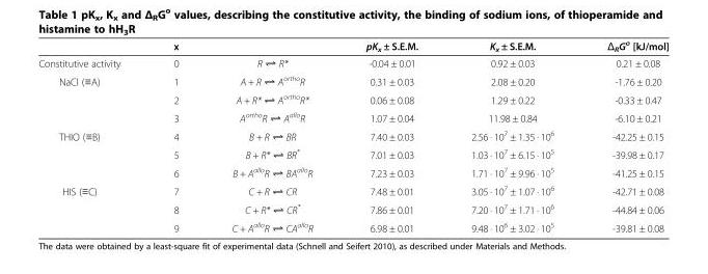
<table><thead><tr><td></td><td>x</td><td></td><td>pK<sub>x</sub> ± S.E.M.</td><td>K<sub>x</sub> ± S.E.M.</td><td>Δ<sub>R</sub>G<sup>o</sup> [kJ/mol]</td></tr></thead><tbody><tr><td>Constitutive activity</td><td>0</td><td>R ⇌ R*</td><td>-0.04 ± 0.01</td><td>0.92 ± 0.03</td><td>0.21 ± 0.08</td></tr><tr><td rowspan="3">NaCl (≡A)</td><td>1</td><td>A + R ⇌ A<sup>ortho</sup>R</td><td>0.31 ± 0.03</td><td>2.08 ± 0.20</td><td>-1.76 ± 0.20</td></tr><tr><td>2</td><td>A + R* ⇌ A<sup>ortho</sup>R*</td><td>0.06 ± 0.08</td><td>1.29 ± 0.22</td><td>-0.33 ± 0.47</td></tr><tr><td>3</td><td>A<sup>ortho</sup>R ⇌ A<sup>allo</sup>R</td><td>1.07 ± 0.04</td><td>11.98 ± 0.84</td><td>-6.10 ± 0.21</td></tr><tr><td rowspan="3">THIO (≡B)</td><td>4</td><td>B + R ⇌ BR</td><td>7.40 ± 0.03</td><td>2.56 · 10<sup>7</sup> ± 1.35 · 10<sup>6</sup></td><td>-42.25 ± 0.15</td></tr><tr><td>5</td><td>B + R* ⇌ BR*</td><td>7.01 ± 0.03</td><td>1.03 · 10<sup>7</sup> ± 6.15 · 10<sup>5</sup></td><td>-39.98 ± 0.17</td></tr><tr><td>6</td><td>B + A<sup>allo</sup>R ⇌ BA<sup>allo</sup>R</td><td>7.23 ± 0.03</td><td>1.71 · 10<sup>7</sup> ± 9.96 · 10<sup>5</sup></td><td>-41.25 ± 0.15</td></tr><tr><td rowspan="3">HIS (≡C)</td><td>7</td><td>C + R ⇌ CR</td><td>7.48 ± 0.01</td><td>3.05 · 10<sup>7</sup> ± 1.07 · 10<sup>6</sup></td><td>-42.71 ± 0.08</td></tr><tr><td>8</td><td>C + R* ⇌ CR*</td><td>7.86 ± 0.01</td><td>7.20 · 10<sup>7</sup> ± 1.71 · 10<sup>6</sup></td><td>-44.84 ± 0.06</td></tr><tr><td>9</td><td>C + A<sup>allo</sup>R ⇌ CA<sup>allo</sup>R</td><td>6.98 ± 0.01</td><td>9.48 · 10<sup>6</sup> ± 3.02 · 10<sup>5</sup></td><td>-39.81 ± 0.08</td></tr></tbody></table>